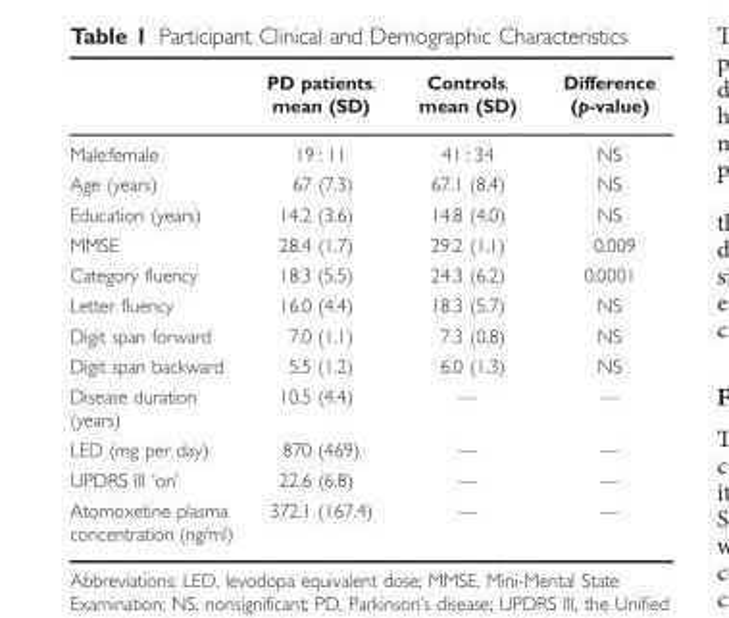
<table><thead><tr><td></td><td>PD patients, mean (SD)</td><td>Controls, mean (SD)</td><td>Difference (p-value)</td></tr></thead><tbody><tr><td>Male:female</td><td>19 : 11</td><td>41 : 34</td><td>NS</td></tr><tr><td>Age (years)</td><td>67 (7.3)</td><td>67.1 (8.4)</td><td>NS</td></tr><tr><td>Education (years)</td><td>14.2 (3.6)</td><td>14.8 (4.0)</td><td>NS</td></tr><tr><td>MMSE</td><td>28.4 (1.7)</td><td>29.2 (1.1)</td><td>0.009</td></tr><tr><td>Category fluency</td><td>18.3 (5.5)</td><td>24.3 (6.2)</td><td>0.0001</td></tr><tr><td>Letter fluency</td><td>16.0 (4.4)</td><td>18.3 (5.7)</td><td>NS</td></tr><tr><td>Digit span forward</td><td>7.0 (1.1)</td><td>7.3 (0.8)</td><td>NS</td></tr><tr><td>Digit span backward</td><td>5.5 (1.2)</td><td>6.0 (1.3)</td><td>NS</td></tr><tr><td>Disease duration (years)</td><td>10.5 (4.4)</td><td>—</td><td>—</td></tr><tr><td>LED (mg per day)</td><td>870 (469)</td><td>—</td><td>—</td></tr><tr><td>UPDRS III ‘on’</td><td>22.6 (6.8)</td><td>—</td><td>—</td></tr><tr><td>Atomoxetine plasma concentration (ng/ml)</td><td>372.1 (167.4)</td><td>—</td><td>—</td></tr></tbody></table>